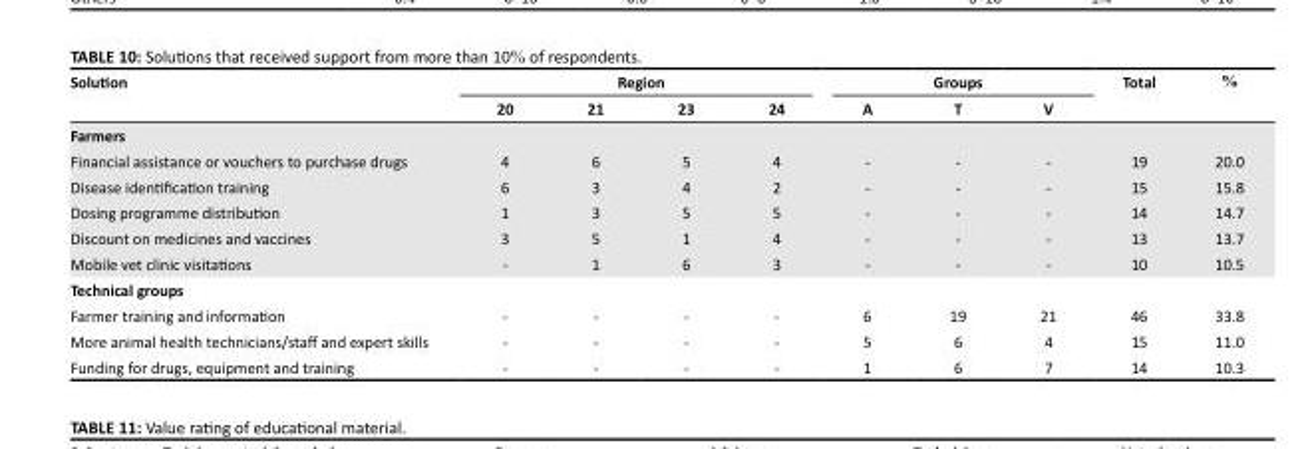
<table><thead><tr><td rowspan="2">Solution</td><td colspan="4">Region</td><td colspan="3">Groups</td><td rowspan="2">Total</td><td rowspan="2">%</td></tr><tr><td>20</td><td>21</td><td>23</td><td>24</td><td>A</td><td>T</td><td>V</td></tr></thead><tbody><tr><td colspan="10">Farmers</td></tr><tr><td>Financial assistance or vouchers to purchase drugs</td><td>4</td><td>6</td><td>5</td><td>4</td><td>-</td><td>-</td><td>-</td><td>19</td><td>20.0</td></tr><tr><td>Disease identification training</td><td>6</td><td>3</td><td>4</td><td>2</td><td>-</td><td>-</td><td>-</td><td>15</td><td>15.8</td></tr><tr><td>Dosing programme distribution</td><td>1</td><td>3</td><td>5</td><td>5</td><td>-</td><td>-</td><td>-</td><td>14</td><td>14.7</td></tr><tr><td>Discount on medicines and vaccines</td><td>3</td><td>5</td><td>1</td><td>4</td><td>-</td><td>-</td><td>-</td><td>13</td><td>13.7</td></tr><tr><td>Mobile vet clinic visitations</td><td>-</td><td>1</td><td>6</td><td>3</td><td>-</td><td>-</td><td>-</td><td>10</td><td>10.5</td></tr><tr><td colspan="10">Technical groups</td></tr><tr><td>Farmer training and information</td><td>-</td><td>-</td><td>-</td><td>-</td><td>6</td><td>19</td><td>21</td><td>46</td><td>33.8</td></tr><tr><td>More animal health technicians/staff and expert skills</td><td>-</td><td>-</td><td>-</td><td>-</td><td>5</td><td>6</td><td>4</td><td>15</td><td>11.0</td></tr><tr><td>Funding for drugs, equipment and training</td><td>-</td><td>-</td><td>-</td><td>-</td><td>1</td><td>6</td><td>7</td><td>14</td><td>10.3</td></tr></tbody></table>